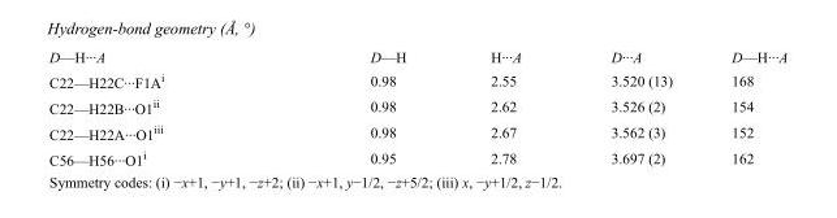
<table><tbody><tr><td>D—H···A</td><td>D—H</td><td>H···A</td><td>D···A</td><td>D—H···A</td></tr><tr><td>C22—H22C···F1A<sup>i</sup></td><td>0.98</td><td>2.55</td><td>3.520 (13)</td><td>168</td></tr><tr><td>C22—H22B···O1<sup>ii</sup></td><td>0.98</td><td>2.62</td><td>3.526 (2)</td><td>154</td></tr><tr><td>C22—H22A···O1<sup>iii</sup></td><td>0.98</td><td>2.67</td><td>3.562 (3)</td><td>152</td></tr><tr><td>C56—H56···O1<sup>i</sup></td><td>0.95</td><td>2.78</td><td>3.697 (2)</td><td>162</td></tr></tbody></table>